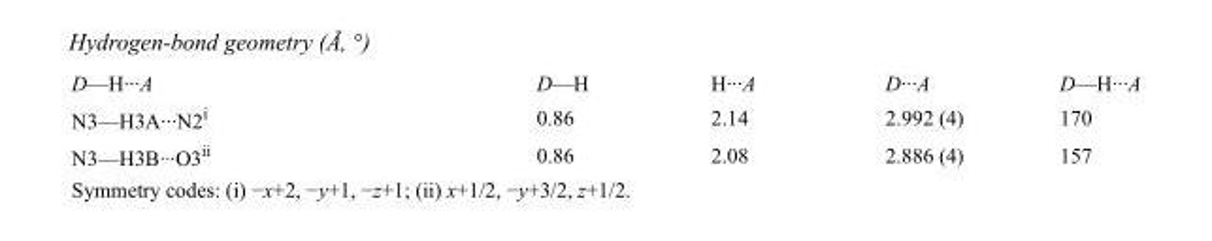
<table><tbody><tr><td>D—H···A</td><td>D—H</td><td>H···A</td><td>D···A</td><td>D—H···A</td></tr><tr><td>N3—H3A···N2<sup>i</sup></td><td>0.86</td><td>2.14</td><td>2.992 (4)</td><td>170</td></tr><tr><td>N3—H3B···O3<sup>ii</sup></td><td>0.86</td><td>2.08</td><td>2.886 (4)</td><td>157</td></tr></tbody></table>